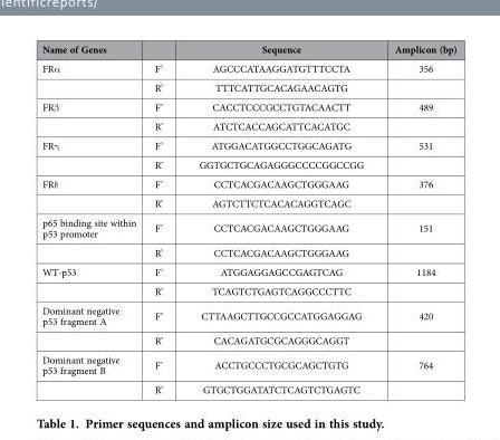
<table><thead><tr><td>Name of Genes</td><td></td><td>Sequence</td><td>Amplicon (bp)</td></tr></thead><tbody><tr><td rowspan="2">FRα</td><td>F’</td><td>AGCCCATAAGGATGTTTCCTA</td><td>356</td></tr><tr><td>R’</td><td>TTTCATTGCACAGAACAGTG</td><td></td></tr><tr><td rowspan="2">FRβ</td><td>F’</td><td>CACCTCCCGCCTGTACAACTT</td><td>489</td></tr><tr><td>R’</td><td>ATCTCACCAGCATTCACATGC</td><td></td></tr><tr><td rowspan="2">FRγ</td><td>F’</td><td>ATGGACATGGCCTGGCAGATG</td><td>531</td></tr><tr><td>R’</td><td>GGTGCTGCAGAGGGCCCCGGCCGG</td><td></td></tr><tr><td rowspan="2">FRδ</td><td>F’</td><td>CCTCACGACAAGCTGGGAAG</td><td>376</td></tr><tr><td>R’</td><td>AGTCTTCTCACACAGGTCAGC</td><td></td></tr><tr><td rowspan="2">p65 binding site within p53 promoter</td><td>F’</td><td>CCTCACGACAAGCTGGGAAG</td><td>151</td></tr><tr><td>R’</td><td>CCTCACGACAAGCTGGGAAG</td><td></td></tr><tr><td rowspan="2">WT-p53</td><td>F’</td><td>ATGGAGGAGCCGAGTCAG</td><td>1184</td></tr><tr><td>R’</td><td>TCAGTCTGAGTCAGGCCCTTC</td><td></td></tr><tr><td rowspan="2">Dominant negative p53 fragment A</td><td>F’</td><td>CTTAAGCTTGCCGCCATGGAGGAG</td><td>420</td></tr><tr><td>R’</td><td>CACAGATGCGCAGGGCAGGT</td><td></td></tr><tr><td rowspan="2">Dominant negative p53 fragment B</td><td>F’</td><td>ACCTGCCCTGCGCAGCTGTG</td><td>764</td></tr><tr><td>R’</td><td>GTGCTGGATATCTCAGTCTGAGTC</td><td></td></tr></tbody></table>